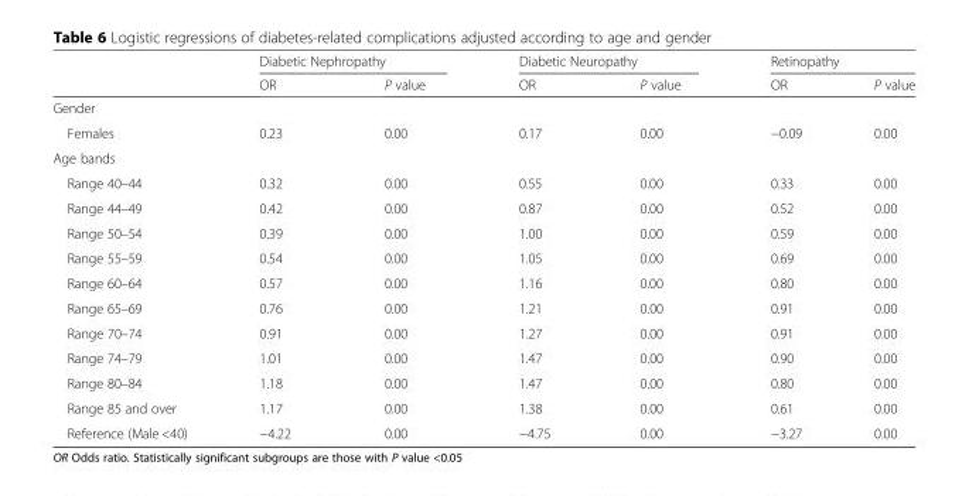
<table><thead><tr><td rowspan="2"></td><td colspan="2">Diabetic Nephropathy</td><td colspan="2">Diabetic Neuropathy</td><td colspan="2">Retinopathy</td></tr><tr><td>OR</td><td>P value</td><td>OR</td><td>P value</td><td>OR</td><td>P value</td></tr></thead><tbody><tr><td colspan="7">Gender</td></tr><tr><td>Females</td><td>0.23</td><td>0.00</td><td>0.17</td><td>0.00</td><td>−0.09</td><td>0.00</td></tr><tr><td colspan="7">Age bands</td></tr><tr><td>Range 40–44</td><td>0.32</td><td>0.00</td><td>0.55</td><td>0.00</td><td>0.33</td><td>0.00</td></tr><tr><td>Range 44–49</td><td>0.42</td><td>0.00</td><td>0.87</td><td>0.00</td><td>0.52</td><td>0.00</td></tr><tr><td>Range 50–54</td><td>0.39</td><td>0.00</td><td>1.00</td><td>0.00</td><td>0.59</td><td>0.00</td></tr><tr><td>Range 55–59</td><td>0.54</td><td>0.00</td><td>1.05</td><td>0.00</td><td>0.69</td><td>0.00</td></tr><tr><td>Range 60–64</td><td>0.57</td><td>0.00</td><td>1.16</td><td>0.00</td><td>0.80</td><td>0.00</td></tr><tr><td>Range 65–69</td><td>0.76</td><td>0.00</td><td>1.21</td><td>0.00</td><td>0.91</td><td>0.00</td></tr><tr><td>Range 70–74</td><td>0.91</td><td>0.00</td><td>1.27</td><td>0.00</td><td>0.91</td><td>0.00</td></tr><tr><td>Range 74–79</td><td>1.01</td><td>0.00</td><td>1.47</td><td>0.00</td><td>0.90</td><td>0.00</td></tr><tr><td>Range 80–84</td><td>1.18</td><td>0.00</td><td>1.47</td><td>0.00</td><td>0.80</td><td>0.00</td></tr><tr><td>Range 85 and over</td><td>1.17</td><td>0.00</td><td>1.38</td><td>0.00</td><td>0.61</td><td>0.00</td></tr><tr><td>Reference (Male &lt;40)</td><td>−4.22</td><td>0.00</td><td>−4.75</td><td>0.00</td><td>−3.27</td><td>0.00</td></tr></tbody></table>